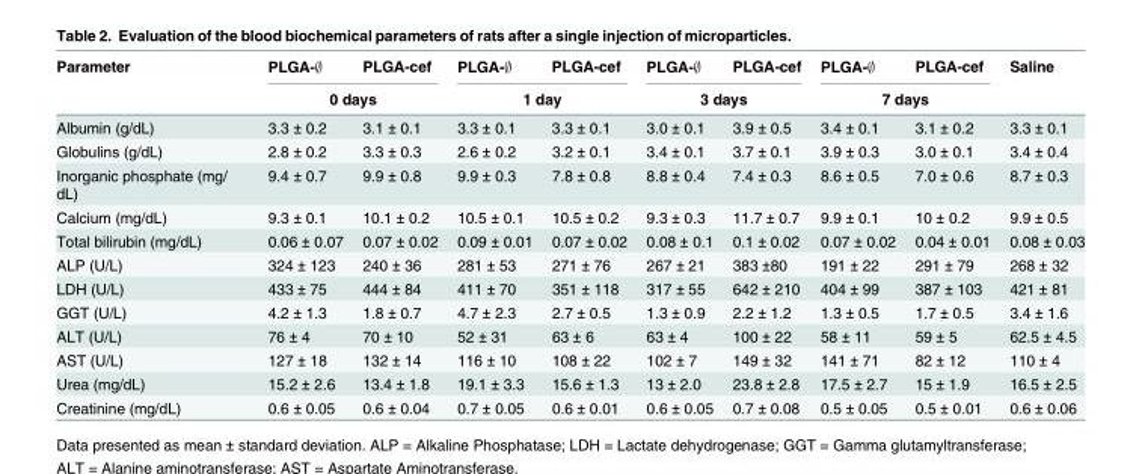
<table><thead><tr><td rowspan="2">Parameter</td><td>PLGA-∅</td><td>PLGA-cef</td><td>PLGA-∅</td><td>PLGA-cef</td><td>PLGA-∅</td><td>PLGA-cef</td><td>PLGA-∅</td><td>PLGA-cef</td><td rowspan="2">Saline</td></tr><tr><td colspan="2">0 days</td><td colspan="2">1 day</td><td colspan="2">3 days</td><td colspan="2">7 days</td></tr></thead><tbody><tr><td>Albumin (g/dL)</td><td>3.3 ± 0.2</td><td>3.1 ± 0.1</td><td>3.3 ± 0.1</td><td>3.3 ± 0.1</td><td>3.0 ± 0.1</td><td>3.9 ± 0.5</td><td>3.4 ± 0.1</td><td>3.1 ± 0.2</td><td>3.3 ± 0.1</td></tr><tr><td>Globulins (g/dL)</td><td>2.8 ± 0.2</td><td>3.3 ± 0.3</td><td>2.6 ± 0.2</td><td>3.2 ± 0.1</td><td>3.4 ± 0.1</td><td>3.7 ± 0.1</td><td>3.9 ± 0.3</td><td>3.0 ± 0.1</td><td>3.4 ± 0.4</td></tr><tr><td>Inorganic phosphate (mg/ dL)</td><td>9.4 ± 0.7</td><td>9.9 ± 0.8</td><td>9.9 ± 0.3</td><td>7.8 ± 0.8</td><td>8.8 ± 0.4</td><td>7.4 ± 0.3</td><td>8.6 ± 0.5</td><td>7.0 ± 0.6</td><td>8.7 ± 0.3</td></tr><tr><td>Calcium (mg/dL)</td><td>9.3 ± 0.1</td><td>10.1 ± 0.2</td><td>10.5 ± 0.1</td><td>10.5 ± 0.2</td><td>9.3 ± 0.3</td><td>11.7 ± 0.7</td><td>9.9 ± 0.1</td><td>10 ± 0.2</td><td>9.9 ± 0.5</td></tr><tr><td>Total bilirubin (mg/dL)</td><td>0.06 ± 0.07</td><td>0.07 ± 0.02</td><td>0.09 ± 0.01</td><td>0.07 ± 0.02</td><td>0.08 ± 0.1</td><td>0.1 ± 0.02</td><td>0.07 ± 0.02</td><td>0.04 ± 0.01</td><td>0.08 ± 0.03</td></tr><tr><td>ALP (U/L)</td><td>324 ± 123</td><td>240 ± 36</td><td>281 ± 53</td><td>271 ± 76</td><td>267 ± 21</td><td>383 ±80</td><td>191 ± 22</td><td>291 ± 79</td><td>268 ± 32</td></tr><tr><td>LDH (U/L)</td><td>433 ± 75</td><td>444 ± 84</td><td>411 ± 70</td><td>351 ± 118</td><td>317 ± 55</td><td>642 ± 210</td><td>404 ± 99</td><td>387 ± 103</td><td>421 ± 81</td></tr><tr><td>GGT (U/L)</td><td>4.2 ± 1.3</td><td>1.8 ± 0.7</td><td>4.7 ± 2.3</td><td>2.7 ± 0.5</td><td>1.3 ± 0.9</td><td>2.2 ± 1.2</td><td>1.3 ± 0.5</td><td>1.7 ± 0.5</td><td>3.4 ± 1.6</td></tr><tr><td>ALT (U/L)</td><td>76 ± 4</td><td>70 ± 10</td><td>52 ± 31</td><td>63 ± 6</td><td>63 ± 4</td><td>100 ± 22</td><td>58 ± 11</td><td>59 ± 5</td><td>62.5 ± 4.5</td></tr><tr><td>AST (U/L)</td><td>127 ± 18</td><td>132 ± 14</td><td>116 ± 10</td><td>108 ± 22</td><td>102 ± 7</td><td>149 ± 32</td><td>141 ± 71</td><td>82 ± 12</td><td>110 ± 4</td></tr><tr><td>Urea (mg/dL)</td><td>15.2 ± 2.6</td><td>13.4 ± 1.8</td><td>19.1 ± 3.3</td><td>15.6 ± 1.3</td><td>13 ± 2.0</td><td>23.8 ± 2.8</td><td>17.5 ± 2.7</td><td>15 ± 1.9</td><td>16.5 ± 2.5</td></tr><tr><td>Creatinine (mg/dL)</td><td>0.6 ± 0.05</td><td>0.6 ± 0.04</td><td>0.7 ± 0.05</td><td>0.6 ± 0.01</td><td>0.6 ± 0.05</td><td>0.7 ± 0.08</td><td>0.5 ± 0.05</td><td>0.5 ± 0.01</td><td>0.6 ± 0.06</td></tr></tbody></table>